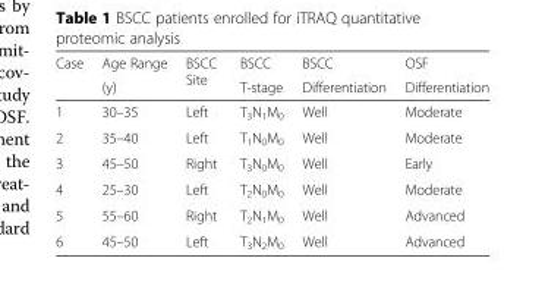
<table><thead><tr><td rowspan="2">Case</td><td rowspan="2">Age Range (y)</td><td rowspan="2">BSCC Site</td><td rowspan="2">BSCC T-stage</td><td rowspan="2">BSCC Differentiation</td><td rowspan="2">OSF Differentiation</td></tr><tr></tr></thead><tbody><tr><td>1</td><td>30–35</td><td>Left</td><td>T<sub>3</sub>N<sub>1</sub>M<sub>0</sub></td><td>Well</td><td>Moderate</td></tr><tr><td>2</td><td>35–40</td><td>Left</td><td>T<sub>1</sub>N<sub>0</sub>M<sub>0</sub></td><td>Well</td><td>Moderate</td></tr><tr><td>3</td><td>45–50</td><td>Right</td><td>T<sub>3</sub>N<sub>0</sub>M<sub>0</sub></td><td>Well</td><td>Early</td></tr><tr><td>4</td><td>25–30</td><td>Left</td><td>T<sub>2</sub>N<sub>0</sub>M<sub>0</sub></td><td>Well</td><td>Moderate</td></tr><tr><td>5</td><td>55–60</td><td>Right</td><td>T<sub>2</sub>N<sub>1</sub>M<sub>0</sub></td><td>Well</td><td>Advanced</td></tr><tr><td>6</td><td>45–50</td><td>Left</td><td>T<sub>3</sub>N<sub>2</sub>M<sub>0</sub></td><td>Well</td><td>Advanced</td></tr></tbody></table>